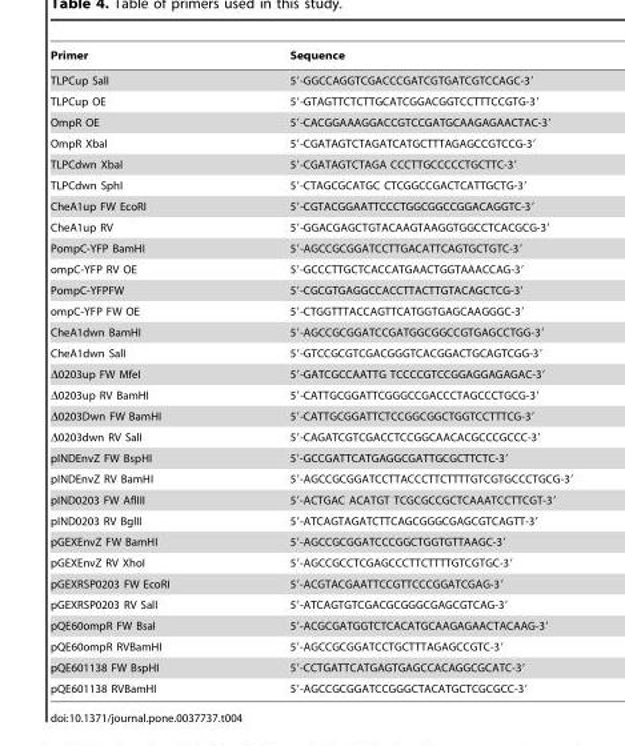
<table><thead><tr><td>Primer</td><td>Sequence</td></tr></thead><tbody><tr><td>TLPCup SalI</td><td>5′-GGCCAGGTCGACCCGATCGTGATCGTCCAGC-3′</td></tr><tr><td>TLPCup OE</td><td>5′-GTAGTTCTCTTGCATCGGACGGTCCTTTCCGTG-3′</td></tr><tr><td>OmpR OE</td><td>5′-CACGGAAAGGACCGTCCGATGCAAGAGAACTAC-3′</td></tr><tr><td>OmpR XbaI</td><td>5′-CGATAGTCTAGATCATGCTTTAGAGCCGTCCG-3′</td></tr><tr><td>TLPCdwn XbaI</td><td>5′-CGATAGTCTAGA CCCTTGCCCCCTGCTTC-3′</td></tr><tr><td>TLPCdwn SphI</td><td>5′-CTAGCGCATGC CTCGGCCGACTCATTGCTG-3′</td></tr><tr><td>CheA1up FW EcoRI</td><td>5′-CGTACGGAATTCCCTGGCGGCCGGACAGGTC-3′</td></tr><tr><td>CheA1up RV</td><td>5′-GGACGAGCTGTACAAGTAAGGTGGCCTCACGCG-3′</td></tr><tr><td>PompC-YFP BamHI</td><td>5′-AGCCGCGGATCCTTGACATTCAGTGCTGTC-3′</td></tr><tr><td>ompC-YFP RV OE</td><td>5′-GCCCTTGCTCACCATGAACTGGTAAACCAG-3′</td></tr><tr><td>PompC-YFPFW</td><td>5′-CGCGTGAGGCCACCTTACTTGTACAGCTCG-3′</td></tr><tr><td>ompC-YFP FW OE</td><td>5′-CTGGTTTACCAGTTCATGGTGAGCAAGGGC-3′</td></tr><tr><td>CheA1dwn BamHI</td><td>5′-AGCCGCGGATCCGATGGCGGCCGTGAGCCTGG-3′</td></tr><tr><td>CheA1dwn SalI</td><td>5′-GTCCGCGTCGACGGGTCACGGACTGCAGTCGG-3′</td></tr><tr><td>Δ0203up FW MfeI</td><td>5′-GATCGCCAATTG TCCCCGTCCGGAGGAGAGAC-3′</td></tr><tr><td>Δ0203up RV BamHI</td><td>5′-CATTGCGGATTCGGGCCGACCCTAGCCCTGCG-3′</td></tr><tr><td>Δ0203Dwn FW BamHI</td><td>5′-CATTGCGGATTCTCCGGCGGCTGGTCCTTTCG-3′</td></tr><tr><td>Δ0203dwn RV SalI</td><td>5′-CAGATCGTCGACCTCCGGCAACACGCCCGCCC-3′</td></tr><tr><td>pINDEnvZ FW BspHI</td><td>5′-GCCGATTCATGAGGCGATTGCGCTTCTC-3′</td></tr><tr><td>pINDEnvZ RV BamHI</td><td>5′-AGCCGCGGATCCTTACCCTTCTTTTGTCGTGCCCTGCG-3′</td></tr><tr><td>pIND0203 FW AflIII</td><td>5′-ACTGAC ACATGT TCGCGCCGCTCAAATCCTTCGT-3′</td></tr><tr><td>pIND0203 RV BglII</td><td>5′-ATCAGTAGATCTTCAGCGGGCGAGCGTCAGTT-3′</td></tr><tr><td>pGEXEnvZ FW BamHI</td><td>5′-AGCCGCGGATCCCGGCTGGTGTTAAGC-3′</td></tr><tr><td>pGEXEnvZ RV XhoI</td><td>5′-AGCCGCCTCGAGCCCTTCTTTTGTCGTGC-3′</td></tr><tr><td>pGEXRSP0203 FW EcoRI</td><td>5′-ACGTACGAATTCCGTTCCCGGATCGAG-3′</td></tr><tr><td>pGEXRSP0203 RV SalI</td><td>5′-ATCAGTGTCGACGCGGGCGAGCGTCAG-3′</td></tr><tr><td>pQE60ompR FW BsaI</td><td>5′-ACGCGATGGTCTCACATGCAAGAGAACTACAAG-3′</td></tr><tr><td>pQE60ompR RVBamHI</td><td>5′-AGCCGCGGATCCTGCTTTAGAGCCGTC-3′</td></tr><tr><td>pQE601138 FW BspHI</td><td>5′-CCTGATTCATGAGTGAGCCACAGGCGCATC-3′</td></tr><tr><td>pQE601138 RVBamHI</td><td>5′-AGCCGCGGATCCGGGCTACATGCTCGCGCC-3′</td></tr></tbody></table>